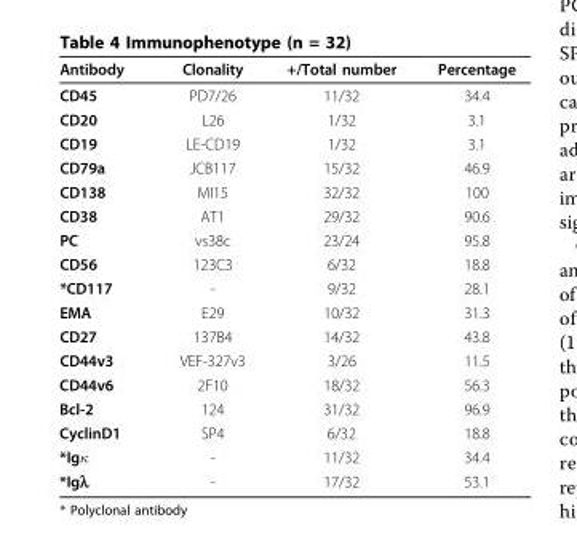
<table><thead><tr><td>Antibody</td><td>Clonality</td><td>+/Total number</td><td>Percentage</td></tr></thead><tbody><tr><td>CD45</td><td>PD7/26</td><td>11/32</td><td>34.4</td></tr><tr><td>CD20</td><td>L26</td><td>1/32</td><td>3.1</td></tr><tr><td>CD19</td><td>LE-CD19</td><td>1/32</td><td>3.1</td></tr><tr><td>CD79a</td><td>JCB117</td><td>15/32</td><td>46.9</td></tr><tr><td>CD138</td><td>MI15</td><td>32/32</td><td>100</td></tr><tr><td>CD38</td><td>AT1</td><td>29/32</td><td>90.6</td></tr><tr><td>PC</td><td>vs38c</td><td>23/24</td><td>95.8</td></tr><tr><td>CD56</td><td>123C3</td><td>6/32</td><td>18.8</td></tr><tr><td>*CD117</td><td>-</td><td>9/32</td><td>28.1</td></tr><tr><td>EMA</td><td>E29</td><td>10/32</td><td>31.3</td></tr><tr><td>CD27</td><td>137B4</td><td>14/32</td><td>43.8</td></tr><tr><td>CD44v3</td><td>VEF-327v3</td><td>3/26</td><td>11.5</td></tr><tr><td>CD44v6</td><td>2F10</td><td>18/32</td><td>56.3</td></tr><tr><td>Bcl-2</td><td>124</td><td>31/32</td><td>96.9</td></tr><tr><td>CyclinD1</td><td>SP4</td><td>6/32</td><td>18.8</td></tr><tr><td>*Igκ</td><td>-</td><td>11/32</td><td>34.4</td></tr><tr><td>*Igλ</td><td>-</td><td>17/32</td><td>53.1</td></tr></tbody></table>